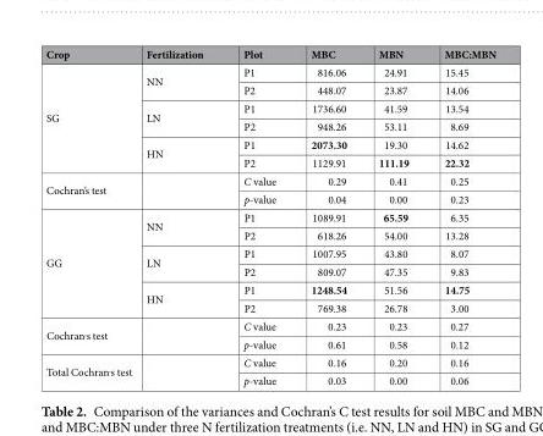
<table><thead><tr><td>Crop</td><td>Fertilization</td><td>Plot</td><td>MBC</td><td>MBN</td><td>MBC:MBN</td></tr></thead><tbody><tr><td rowspan="6">SG</td><td rowspan="2">NN</td><td>P1</td><td>816.06</td><td>24.91</td><td>15.45</td></tr><tr><td>P2</td><td>448.07</td><td>23.87</td><td>14.06</td></tr><tr><td rowspan="2">LN</td><td>P1</td><td>1736.60</td><td>41.59</td><td>13.54</td></tr><tr><td>P2</td><td>948.26</td><td>53.11</td><td>8.69</td></tr><tr><td rowspan="2">HN</td><td>P1</td><td>2073.30</td><td>19.30</td><td>14.62</td></tr><tr><td>P2</td><td>1129.91</td><td>111.19</td><td>22.32</td></tr><tr><td rowspan="2">Cochran’s test</td><td rowspan="2"></td><td>C value</td><td>0.29</td><td>0.41</td><td>0.25</td></tr><tr><td>p-value</td><td>0.04</td><td>0.00</td><td>0.23</td></tr><tr><td rowspan="6">GG</td><td rowspan="2">NN</td><td>P1</td><td>1089.91</td><td>65.59</td><td>6.35</td></tr><tr><td>P2</td><td>618.26</td><td>54.00</td><td>13.28</td></tr><tr><td rowspan="2">LN</td><td>P1</td><td>1007.95</td><td>43.80</td><td>8.07</td></tr><tr><td>P2</td><td>809.07</td><td>47.35</td><td>9.83</td></tr><tr><td rowspan="2">HN</td><td>P1</td><td>1248.54</td><td>51.56</td><td>14.75</td></tr><tr><td>P2</td><td>769.38</td><td>26.78</td><td>3.00</td></tr><tr><td rowspan="2">Cochran<sup>,</sup>s test</td><td rowspan="2"></td><td>C value</td><td>0.23</td><td>0.23</td><td>0.27</td></tr><tr><td>p-value</td><td>0.61</td><td>0.58</td><td>0.12</td></tr><tr><td rowspan="2">Total Cochran<sup>,</sup>s test</td><td rowspan="2"></td><td>C value</td><td>0.16</td><td>0.20</td><td>0.16</td></tr><tr><td>p-value</td><td>0.03</td><td>0.00</td><td>0.06</td></tr></tbody></table>